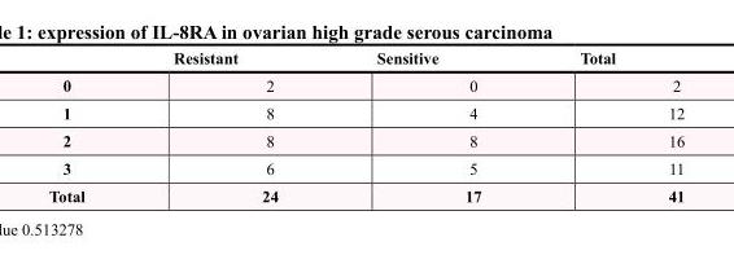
<table><thead><tr><td></td><td>Resistant</td><td>Sensitive</td><td>Total</td></tr></thead><tbody><tr><td>0</td><td>2</td><td>0</td><td>2</td></tr><tr><td>1</td><td>8</td><td>4</td><td>12</td></tr><tr><td>2</td><td>8</td><td>8</td><td>16</td></tr><tr><td>3</td><td>6</td><td>5</td><td>11</td></tr><tr><td>Total</td><td>24</td><td>17</td><td>41</td></tr></tbody></table>